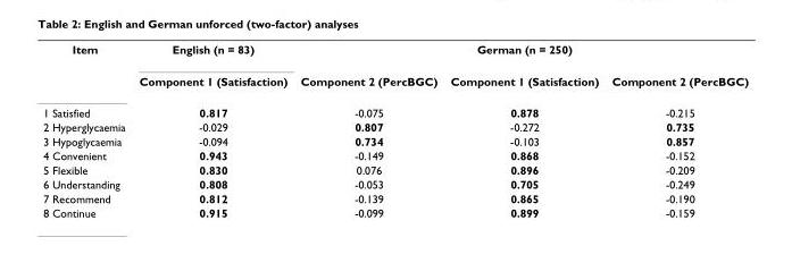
<table><thead><tr><td rowspan="2">Item</td><td colspan="2">English (n = 83)</td><td colspan="2">German (n = 250)</td></tr><tr><td>Component 1 (Satisfaction)</td><td>Component 2 (PercBGC)</td><td>Component 1 (Satisfaction)</td><td>Component 2 (PercBGC)</td></tr></thead><tbody><tr><td>1 Satisfied</td><td>0.817</td><td>-0.075</td><td>0.878</td><td>-0.215</td></tr><tr><td>2 Hyperglycaemia</td><td>-0.029</td><td>0.807</td><td>-0.272</td><td>0.735</td></tr><tr><td>3 Hypoglycaemia</td><td>-0.094</td><td>0.734</td><td>-0.103</td><td>0.857</td></tr><tr><td>4 Convenient</td><td>0.943</td><td>-0.149</td><td>0.868</td><td>-0.152</td></tr><tr><td>5 Flexible</td><td>0.830</td><td>0.076</td><td>0.896</td><td>-0.209</td></tr><tr><td>6 Understanding</td><td>0.808</td><td>-0.053</td><td>0.705</td><td>-0.249</td></tr><tr><td>7 Recommend</td><td>0.812</td><td>-0.139</td><td>0.865</td><td>-0.190</td></tr><tr><td>8 Continue</td><td>0.915</td><td>-0.099</td><td>0.899</td><td>-0.159</td></tr></tbody></table>